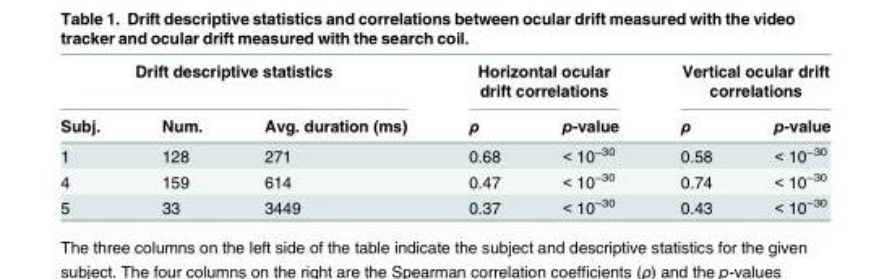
<table><thead><tr><td colspan="3">Drift descriptive statistics</td><td colspan="2">Horizontal ocular drift correlations</td><td colspan="2">Vertical ocular drift correlations</td></tr><tr><td>Subj.</td><td>Num.</td><td>Avg. duration (ms)</td><td>ρ</td><td>p-value</td><td>ρ</td><td>p-value</td></tr></thead><tbody><tr><td>1</td><td>128</td><td>271</td><td>0.68</td><td>&lt; 10<sup>−30</sup></td><td>0.58</td><td>&lt; 10<sup>−30</sup></td></tr><tr><td>4</td><td>159</td><td>614</td><td>0.47</td><td>&lt; 10<sup>−30</sup></td><td>0.74</td><td>&lt; 10<sup>−30</sup></td></tr><tr><td>5</td><td>33</td><td>3449</td><td>0.37</td><td>&lt; 10<sup>−30</sup></td><td>0.43</td><td>&lt; 10<sup>−30</sup></td></tr></tbody></table>